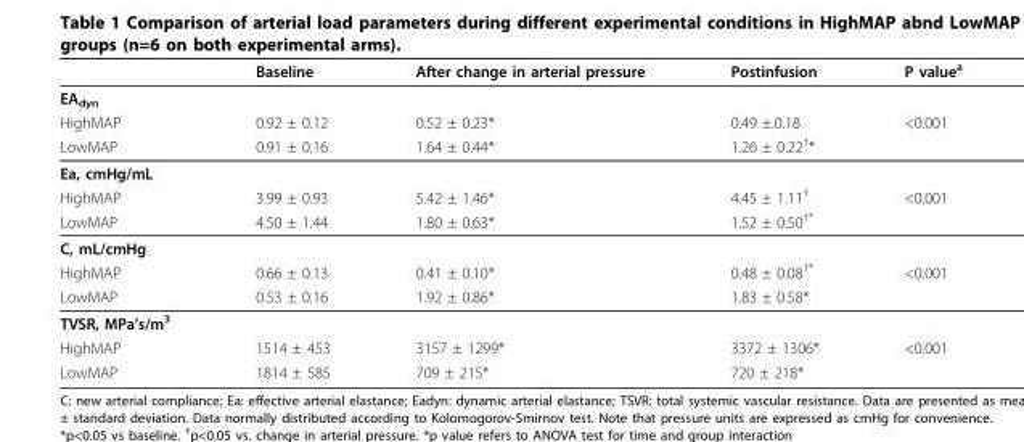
<table><thead><tr><td></td><td>Baseline</td><td>After change in arterial pressure</td><td>Postinfusion</td><td>P value<sup>a</sup></td></tr></thead><tbody><tr><td colspan="5">EA<sub>dyn</sub></td></tr><tr><td>HighMAP</td><td>0.92 ± 0.12</td><td>0.52 ± 0.23*</td><td>0.49 ±.0.18</td><td>&lt;0.001</td></tr><tr><td>LowMAP</td><td>0.91 ± 0.16</td><td>1.64 ± 0.44*</td><td>1.26 ± 0.22<sup>†</sup>*</td><td></td></tr><tr><td colspan="5">Ea, cmHg/mL</td></tr><tr><td>HighMAP</td><td>3.99 ± 0.93</td><td>5.42 ± 1.46*</td><td>4.45 ± 1.11<sup>†</sup></td><td>&lt;0.001</td></tr><tr><td>LowMAP</td><td>4.50 ± 1.44</td><td>1.80 ± 0.63*</td><td>1.52 ± 0.50<sup>†*</sup></td><td></td></tr><tr><td colspan="5">C, mL/cmHg</td></tr><tr><td>HighMAP</td><td>0.66 ± 0.13</td><td>0.41 ± 0.10*</td><td>0.48 ± 0.08<sup>†*</sup></td><td>&lt;0.001</td></tr><tr><td>LowMAP</td><td>0.53 ± 0.16</td><td>1.92 ± 0.86*</td><td>1.83 ± 0.58*</td><td></td></tr><tr><td colspan="5">TVSR, MPa’s/m<sup>3</sup></td></tr><tr><td>HighMAP</td><td>1514 ± 453</td><td>3157 ± 1299*</td><td>3372 ± 1306*</td><td>&lt;0.001</td></tr><tr><td>LowMAP</td><td>1814 ± 585</td><td>709 ± 215*</td><td>720 ± 218*</td><td></td></tr></tbody></table>